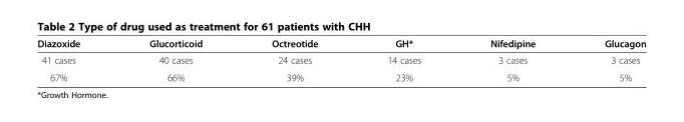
<table><thead><tr><td>Diazoxide</td><td>Glucorticoid</td><td>Octreotide</td><td>GH*</td><td>Nifedipine</td><td>Glucagon</td></tr></thead><tbody><tr><td>41 cases</td><td>40 cases</td><td>24 cases</td><td>14 cases</td><td>3 cases</td><td>3 cases</td></tr><tr><td>67%</td><td>66%</td><td>39%</td><td>23%</td><td>5%</td><td>5%</td></tr></tbody></table>